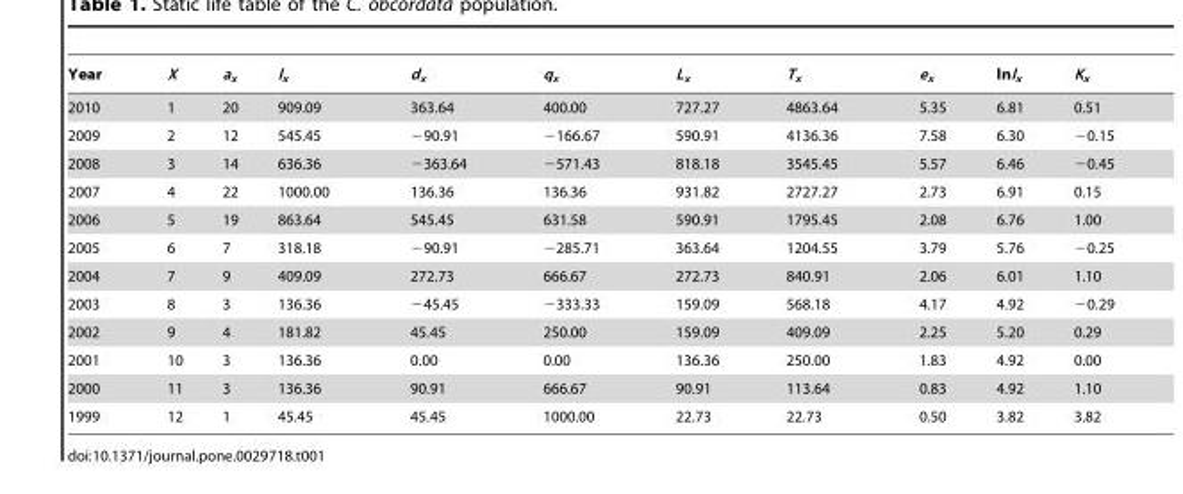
<table><thead><tr><td>Year</td><td>X</td><td>a<sub>x</sub></td><td>l<sub>x</sub></td><td>d<sub>x</sub></td><td>q<sub>x</sub></td><td>L<sub>x</sub></td><td>T<sub>x</sub></td><td>e<sub>x</sub></td><td>lnl<sub>x</sub></td><td>K<sub>x</sub></td></tr></thead><tbody><tr><td>2010</td><td>1</td><td>20</td><td>909.09</td><td>363.64</td><td>400.00</td><td>727.27</td><td>4863.64</td><td>5.35</td><td>6.81</td><td>0.51</td></tr><tr><td>2009</td><td>2</td><td>12</td><td>545.45</td><td>−90.91</td><td>−166.67</td><td>590.91</td><td>4136.36</td><td>7.58</td><td>6.30</td><td>−0.15</td></tr><tr><td>2008</td><td>3</td><td>14</td><td>636.36</td><td>−363.64</td><td>−571.43</td><td>818.18</td><td>3545.45</td><td>5.57</td><td>6.46</td><td>−0.45</td></tr><tr><td>2007</td><td>4</td><td>22</td><td>1000.00</td><td>136.36</td><td>136.36</td><td>931.82</td><td>2727.27</td><td>2.73</td><td>6.91</td><td>0.15</td></tr><tr><td>2006</td><td>5</td><td>19</td><td>863.64</td><td>545.45</td><td>631.58</td><td>590.91</td><td>1795.45</td><td>2.08</td><td>6.76</td><td>1.00</td></tr><tr><td>2005</td><td>6</td><td>7</td><td>318.18</td><td>−90.91</td><td>−285.71</td><td>363.64</td><td>1204.55</td><td>3.79</td><td>5.76</td><td>−0.25</td></tr><tr><td>2004</td><td>7</td><td>9</td><td>409.09</td><td>272.73</td><td>666.67</td><td>272.73</td><td>840.91</td><td>2.06</td><td>6.01</td><td>1.10</td></tr><tr><td>2003</td><td>8</td><td>3</td><td>136.36</td><td>−45.45</td><td>−333.33</td><td>159.09</td><td>568.18</td><td>4.17</td><td>4.92</td><td>−0.29</td></tr><tr><td>2002</td><td>9</td><td>4</td><td>181.82</td><td>45.45</td><td>250.00</td><td>159.09</td><td>409.09</td><td>2.25</td><td>5.20</td><td>0.29</td></tr><tr><td>2001</td><td>10</td><td>3</td><td>136.36</td><td>0.00</td><td>0.00</td><td>136.36</td><td>250.00</td><td>1.83</td><td>4.92</td><td>0.00</td></tr><tr><td>2000</td><td>11</td><td>3</td><td>136.36</td><td>90.91</td><td>666.67</td><td>90.91</td><td>113.64</td><td>0.83</td><td>4.92</td><td>1.10</td></tr><tr><td>1999</td><td>12</td><td>1</td><td>45.45</td><td>45.45</td><td>1000.00</td><td>22.73</td><td>22.73</td><td>0.50</td><td>3.82</td><td>3.82</td></tr></tbody></table>